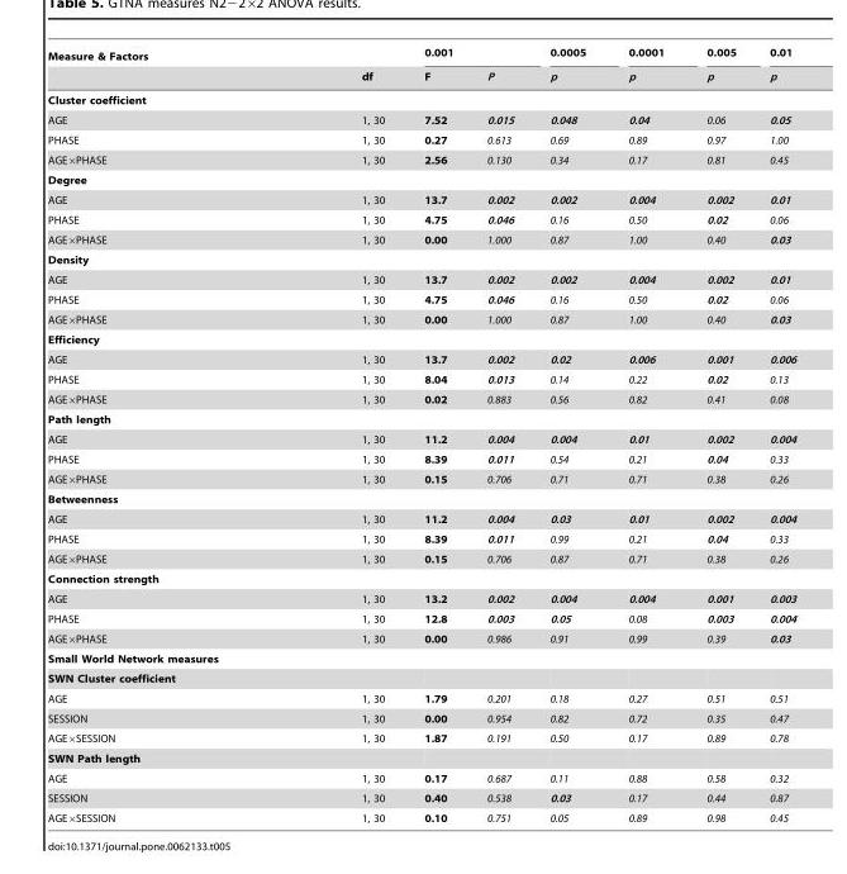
<table><thead><tr><td rowspan="2">Measure &amp; Factors</td><td rowspan="2">df</td><td colspan="2">0.001</td><td rowspan="2">0.0005 p</td><td rowspan="2">0.0001 p</td><td rowspan="2">0.005 p</td><td rowspan="2">0.01 p</td></tr><tr><td>F</td><td>P</td></tr></thead><tbody><tr><td colspan="8">Cluster coefficient</td></tr><tr><td>AGE</td><td>1, 30</td><td>7.52</td><td>0.015</td><td>0.048</td><td>0.04</td><td>0.06</td><td>0.05</td></tr><tr><td>PHASE</td><td>1, 30</td><td>0.27</td><td>0.613</td><td>0.69</td><td>0.89</td><td>0.97</td><td>1.00</td></tr><tr><td>AGE×PHASE</td><td>1, 30</td><td>2.56</td><td>0.130</td><td>0.34</td><td>0.17</td><td>0.81</td><td>0.45</td></tr><tr><td colspan="8">Degree</td></tr><tr><td>AGE</td><td>1, 30</td><td>13.7</td><td>0.002</td><td>0.002</td><td>0.004</td><td>0.002</td><td>0.01</td></tr><tr><td>PHASE</td><td>1, 30</td><td>4.75</td><td>0.046</td><td>0.16</td><td>0.50</td><td>0.02</td><td>0.06</td></tr><tr><td>AGE×PHASE</td><td>1, 30</td><td>0.00</td><td>1.000</td><td>0.87</td><td>1.00</td><td>0.40</td><td>0.03</td></tr><tr><td colspan="8">Density</td></tr><tr><td>AGE</td><td>1, 30</td><td>13.7</td><td>0.002</td><td>0.002</td><td>0.004</td><td>0.002</td><td>0.01</td></tr><tr><td>PHASE</td><td>1, 30</td><td>4.75</td><td>0.046</td><td>0.16</td><td>0.50</td><td>0.02</td><td>0.06</td></tr><tr><td>AGE×PHASE</td><td>1, 30</td><td>0.00</td><td>1.000</td><td>0.87</td><td>1.00</td><td>0.40</td><td>0.03</td></tr><tr><td colspan="8">Efficiency</td></tr><tr><td>AGE</td><td>1, 30</td><td>13.7</td><td>0.002</td><td>0.02</td><td>0.006</td><td>0.001</td><td>0.006</td></tr><tr><td>PHASE</td><td>1, 30</td><td>8.04</td><td>0.013</td><td>0.14</td><td>0.22</td><td>0.02</td><td>0.13</td></tr><tr><td>AGE×PHASE</td><td>1, 30</td><td>0.02</td><td>0.883</td><td>0.56</td><td>0.82</td><td>0.41</td><td>0.08</td></tr><tr><td colspan="8">Path length</td></tr><tr><td>AGE</td><td>1, 30</td><td>11.2</td><td>0.004</td><td>0.004</td><td>0.01</td><td>0.002</td><td>0.004</td></tr><tr><td>PHASE</td><td>1, 30</td><td>8.39</td><td>0.011</td><td>0.54</td><td>0.21</td><td>0.04</td><td>0.33</td></tr><tr><td>AGE×PHASE</td><td>1, 30</td><td>0.15</td><td>0.706</td><td>0.71</td><td>0.71</td><td>0.38</td><td>0.26</td></tr><tr><td colspan="8">Betweenness</td></tr><tr><td>AGE</td><td>1, 30</td><td>11.2</td><td>0.004</td><td>0.03</td><td>0.01</td><td>0.002</td><td>0.004</td></tr><tr><td>PHASE</td><td>1, 30</td><td>8.39</td><td>0.011</td><td>0.99</td><td>0.21</td><td>0.04</td><td>0.33</td></tr><tr><td>AGE×PHASE</td><td>1, 30</td><td>0.15</td><td>0.706</td><td>0.87</td><td>0.71</td><td>0.38</td><td>0.26</td></tr><tr><td colspan="8">Connection strength</td></tr><tr><td>AGE</td><td>1, 30</td><td>13.2</td><td>0.002</td><td>0.004</td><td>0.004</td><td>0.001</td><td>0.003</td></tr><tr><td>PHASE</td><td>1, 30</td><td>12.8</td><td>0.003</td><td>0.05</td><td>0.08</td><td>0.003</td><td>0.004</td></tr><tr><td>AGE×PHASE</td><td>1, 30</td><td>0.00</td><td>0.986</td><td>0.91</td><td>0.99</td><td>0.39</td><td>0.03</td></tr><tr><td colspan="8">Small World Network measures</td></tr><tr><td colspan="8">SWN Cluster coefficient</td></tr><tr><td>AGE</td><td>1, 30</td><td>1.79</td><td>0.201</td><td>0.18</td><td>0.27</td><td>0.51</td><td>0.51</td></tr><tr><td>SESSION</td><td>1, 30</td><td>0.00</td><td>0.954</td><td>0.82</td><td>0.72</td><td>0.35</td><td>0.47</td></tr><tr><td>AGE×SESSION</td><td>1, 30</td><td>1.87</td><td>0.191</td><td>0.50</td><td>0.17</td><td>0.89</td><td>0.78</td></tr><tr><td colspan="8">SWN Path length</td></tr><tr><td>AGE</td><td>1, 30</td><td>0.17</td><td>0.687</td><td>0.11</td><td>0.88</td><td>0.58</td><td>0.32</td></tr><tr><td>SESSION</td><td>1, 30</td><td>0.40</td><td>0.538</td><td>0.03</td><td>0.17</td><td>0.44</td><td>0.87</td></tr><tr><td>AGE×SESSION</td><td>1, 30</td><td>0.10</td><td>0.751</td><td>0.05</td><td>0.89</td><td>0.98</td><td>0.45</td></tr></tbody></table>